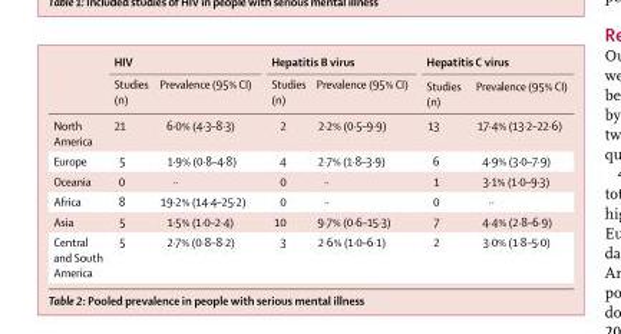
<table><thead><tr><td rowspan="2"></td><td colspan="2">HIV</td><td colspan="2">Hepatitis B virus</td><td colspan="2">Hepatitis C virus</td></tr><tr><td>Studies (n)</td><td>Prevalence (95% CI)</td><td>Studies (n)</td><td>Prevalence (95% CI)</td><td>Studies (n)</td><td>Prevalence (95% CI)</td></tr></thead><tbody><tr><td>North America</td><td>21</td><td>6·0% (4·3–8·3)</td><td>2</td><td>2·2% (0·5–9·9)</td><td>13</td><td>17·4% (13·2–22·6)</td></tr><tr><td>Europe</td><td>5</td><td>1·9% (0·8–4·8)</td><td>4</td><td>2·7% (1·8–3·9)</td><td>6</td><td>4·9% (3·0–7·9)</td></tr><tr><td>Oceania</td><td>0</td><td>··</td><td>0</td><td>··</td><td>1</td><td>3·1% (1·0–9·3)</td></tr><tr><td>Africa</td><td>8</td><td>19·2% (14·4–25·2)</td><td>0</td><td>··</td><td>0</td><td>··</td></tr><tr><td>Asia</td><td>5</td><td>1·5% (1·0–2·4)</td><td>10</td><td>9·7% (0·6–15·3)</td><td>7</td><td>4·4% (2·8–6·9)</td></tr><tr><td>Central and South America</td><td>5</td><td>2·7% (0·8–8·2)</td><td>3</td><td>2·6% (1·0–6·1)</td><td>2</td><td>3·0% (1·8–5·0)</td></tr></tbody></table>